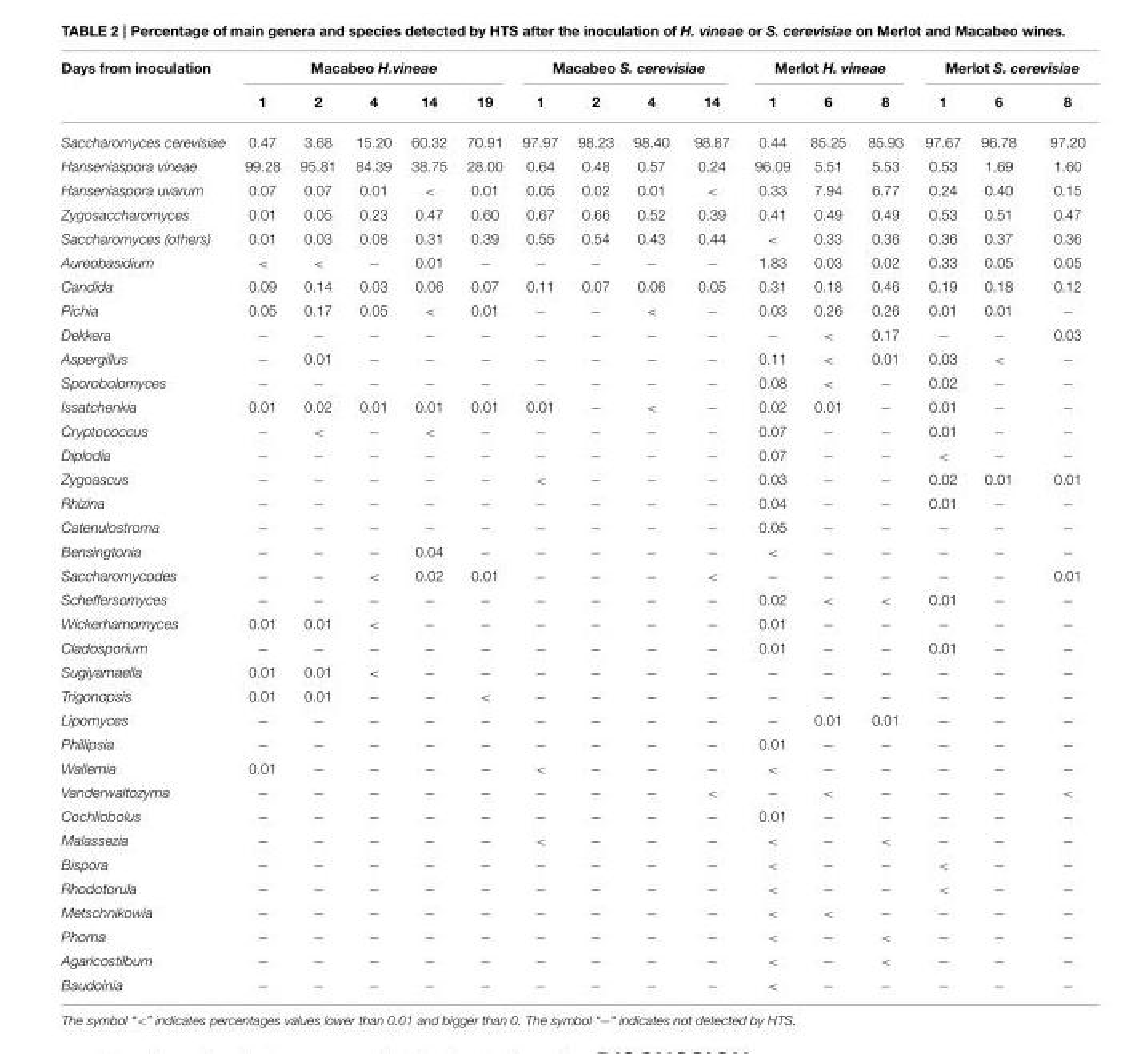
<table><thead><tr><td rowspan="2">Days from inoculation</td><td colspan="5">Macabeo H.vineae</td><td colspan="4">Macabeo S. cerevisiae</td><td colspan="3">Merlot H. vineae</td><td colspan="3">Merlot S. cerevisiae</td></tr><tr><td>1</td><td>2</td><td>4</td><td>14</td><td>19</td><td>1</td><td>2</td><td>4</td><td>14</td><td>1</td><td>6</td><td>8</td><td>1</td><td>6</td><td>8</td></tr></thead><tbody><tr><td>Saccharomyces cerevisiae</td><td>0.47</td><td>3.68</td><td>15.20</td><td>60.32</td><td>70.91</td><td>97.97</td><td>98.23</td><td>98.40</td><td>98.87</td><td>0.44</td><td>85.25</td><td>85.93</td><td>97.67</td><td>96.78</td><td>97.20</td></tr><tr><td>Hanseniaspora vineae</td><td>99.28</td><td>95.81</td><td>84.39</td><td>38.75</td><td>28.00</td><td>0.64</td><td>0.48</td><td>0.57</td><td>0.24</td><td>96.09</td><td>5.51</td><td>5.53</td><td>0.53</td><td>1.69</td><td>1.60</td></tr><tr><td>Hanseniaspora uvarum</td><td>0.07</td><td>0.07</td><td>0.01</td><td>&lt;</td><td>0.01</td><td>0.05</td><td>0.02</td><td>0.01</td><td>&lt;</td><td>0.33</td><td>7.94</td><td>6.77</td><td>0.24</td><td>0.40</td><td>0.15</td></tr><tr><td>Zygosaccharomyces</td><td>0.01</td><td>0.05</td><td>0.23</td><td>0.47</td><td>0.60</td><td>0.67</td><td>0.66</td><td>0.52</td><td>0.39</td><td>0.41</td><td>0.49</td><td>0.49</td><td>0.53</td><td>0.51</td><td>0.47</td></tr><tr><td>Saccharomyces (others)</td><td>0.01</td><td>0.03</td><td>0.08</td><td>0.31</td><td>0.39</td><td>0.55</td><td>0.54</td><td>0.43</td><td>0.44</td><td>&lt;</td><td>0.33</td><td>0.36</td><td>0.36</td><td>0.37</td><td>0.36</td></tr><tr><td>Aureobasidium</td><td>&lt;</td><td>&lt;</td><td>−</td><td>0.01</td><td>−</td><td>−</td><td>−</td><td>−</td><td>−</td><td>1.83</td><td>0.03</td><td>0.02</td><td>0.33</td><td>0.05</td><td>0.05</td></tr><tr><td>Candida</td><td>0.09</td><td>0.14</td><td>0.03</td><td>0.06</td><td>0.07</td><td>0.11</td><td>0.07</td><td>0.06</td><td>0.05</td><td>0.31</td><td>0.18</td><td>0.46</td><td>0.19</td><td>0.18</td><td>0.12</td></tr><tr><td>Pichia</td><td>0.05</td><td>0.17</td><td>0.05</td><td>&lt;</td><td>0.01</td><td>−</td><td>−</td><td>&lt;</td><td>−</td><td>0.03</td><td>0.26</td><td>0.26</td><td>0.01</td><td>0.01</td><td>−</td></tr><tr><td>Dekkera</td><td>−</td><td>−</td><td>−</td><td>−</td><td>−</td><td>−</td><td>−</td><td>−</td><td>−</td><td>−</td><td>&lt;</td><td>0.17</td><td>−</td><td>−</td><td>0.03</td></tr><tr><td>Aspergillus</td><td>−</td><td>0.01</td><td>−</td><td>−</td><td>−</td><td>−</td><td>−</td><td>−</td><td>−</td><td>0.11</td><td>&lt;</td><td>0.01</td><td>0.03</td><td>&lt;</td><td>−</td></tr><tr><td>Sporobolomyces</td><td>−</td><td>−</td><td>−</td><td>−</td><td>−</td><td>−</td><td>−</td><td>−</td><td>−</td><td>0.08</td><td>&lt;</td><td>−</td><td>0.02</td><td>−</td><td>−</td></tr><tr><td>Issatchenkia</td><td>0.01</td><td>0.02</td><td>0.01</td><td>0.01</td><td>0.01</td><td>0.01</td><td>−</td><td>&lt;</td><td>−</td><td>0.02</td><td>0.01</td><td>−</td><td>0.01</td><td>−</td><td>−</td></tr><tr><td>Cryptococcus</td><td>−</td><td>&lt;</td><td>−</td><td>&lt;</td><td>−</td><td>−</td><td>−</td><td>−</td><td>−</td><td>0.07</td><td>−</td><td>−</td><td>0.01</td><td>−</td><td>−</td></tr><tr><td>Diplodia</td><td>−</td><td>−</td><td>−</td><td>−</td><td>−</td><td>−</td><td>−</td><td>−</td><td>−</td><td>0.07</td><td>−</td><td>−</td><td>&lt;</td><td>−</td><td>−</td></tr><tr><td>Zygoascus</td><td>−</td><td>−</td><td>−</td><td>−</td><td>−</td><td>&lt;</td><td>−</td><td>−</td><td>−</td><td>0.03</td><td>−</td><td>−</td><td>0.02</td><td>0.01</td><td>0.01</td></tr><tr><td>Rhizina</td><td>−</td><td>−</td><td>−</td><td>−</td><td>−</td><td>−</td><td>−</td><td>−</td><td>−</td><td>0.04</td><td>−</td><td>−</td><td>0.01</td><td>−</td><td>−</td></tr><tr><td>Catenulostroma</td><td>−</td><td>−</td><td>−</td><td>−</td><td>−</td><td>−</td><td>−</td><td>−</td><td>−</td><td>0.05</td><td>−</td><td>−</td><td>−</td><td>−</td><td>−</td></tr><tr><td>Bensingtonia</td><td>−</td><td>−</td><td>−</td><td>0.04</td><td>−</td><td>−</td><td>−</td><td>−</td><td>−</td><td>&lt;</td><td>−</td><td>−</td><td>−</td><td>−</td><td>−</td></tr><tr><td>Saccharomycodes</td><td>−</td><td>−</td><td>&lt;</td><td>0.02</td><td>0.01</td><td>−</td><td>−</td><td>−</td><td>&lt;</td><td>−</td><td>−</td><td>−</td><td>−</td><td>−</td><td>0.01</td></tr><tr><td>Scheffersomyces</td><td>−</td><td>−</td><td>−</td><td>−</td><td>−</td><td>−</td><td>−</td><td>−</td><td>−</td><td>0.02</td><td>&lt;</td><td>&lt;</td><td>0.01</td><td>−</td><td>−</td></tr><tr><td>Wickerhamomyces</td><td>0.01</td><td>0.01</td><td>&lt;</td><td>−</td><td>−</td><td>−</td><td>−</td><td>−</td><td>−</td><td>0.01</td><td>−</td><td>−</td><td>−</td><td>−</td><td>−</td></tr><tr><td>Cladosporium</td><td>−</td><td>−</td><td>−</td><td>−</td><td>−</td><td>−</td><td>−</td><td>−</td><td>−</td><td>0.01</td><td>−</td><td>−</td><td>0.01</td><td>−</td><td>−</td></tr><tr><td>Sugiyamaella</td><td>0.01</td><td>0.01</td><td>&lt;</td><td>−</td><td>−</td><td>−</td><td>−</td><td>−</td><td>−</td><td>−</td><td>−</td><td>−</td><td>−</td><td>−</td><td>−</td></tr><tr><td>Trigonopsis</td><td>0.01</td><td>0.01</td><td>−</td><td>−</td><td>&lt;</td><td>−</td><td>−</td><td>−</td><td>−</td><td>−</td><td>−</td><td>−</td><td>−</td><td>−</td><td>−</td></tr><tr><td>Lipomyces</td><td>−</td><td>−</td><td>−</td><td>−</td><td>−</td><td>−</td><td>−</td><td>−</td><td>−</td><td>−</td><td>0.01</td><td>0.01</td><td>−</td><td>−</td><td>−</td></tr><tr><td>Phillipsia</td><td>−</td><td>−</td><td>−</td><td>−</td><td>−</td><td>−</td><td>−</td><td>−</td><td>−</td><td>0.01</td><td>−</td><td>−</td><td>−</td><td>−</td><td>−</td></tr><tr><td>Wallemia</td><td>0.01</td><td>−</td><td>−</td><td>−</td><td>−</td><td>&lt;</td><td>−</td><td>−</td><td>−</td><td>&lt;</td><td>−</td><td>−</td><td>−</td><td>−</td><td>−</td></tr><tr><td>Vanderwaltozyma</td><td>−</td><td>−</td><td>−</td><td>−</td><td>−</td><td>−</td><td>−</td><td>−</td><td>&lt;</td><td>−</td><td>&lt;</td><td>−</td><td>−</td><td>−</td><td>&lt;</td></tr><tr><td>Cochliobolus</td><td>−</td><td>−</td><td>−</td><td>−</td><td>−</td><td>−</td><td>−</td><td>−</td><td>−</td><td>0.01</td><td>−</td><td>−</td><td>−</td><td>−</td><td>−</td></tr><tr><td>Malassezia</td><td>−</td><td>−</td><td>−</td><td>−</td><td>−</td><td>&lt;</td><td>−</td><td>−</td><td>−</td><td>&lt;</td><td>−</td><td>&lt;</td><td>−</td><td>−</td><td>−</td></tr><tr><td>Bispora</td><td>−</td><td>−</td><td>−</td><td>−</td><td>−</td><td>−</td><td>−</td><td>−</td><td>−</td><td>&lt;</td><td>−</td><td>−</td><td>&lt;</td><td>−</td><td>−</td></tr><tr><td>Rhodotorula</td><td>−</td><td>−</td><td>−</td><td>−</td><td>−</td><td>−</td><td>−</td><td>−</td><td>−</td><td>&lt;</td><td>−</td><td>−</td><td>&lt;</td><td>−</td><td>−</td></tr><tr><td>Metschnikowia</td><td>−</td><td>−</td><td>−</td><td>−</td><td>−</td><td>−</td><td>−</td><td>−</td><td>−</td><td>&lt;</td><td>&lt;</td><td>−</td><td>−</td><td>−</td><td>−</td></tr><tr><td>Phoma</td><td>−</td><td>−</td><td>−</td><td>−</td><td>−</td><td>−</td><td>−</td><td>−</td><td>−</td><td>&lt;</td><td>−</td><td>&lt;</td><td>−</td><td>−</td><td>−</td></tr><tr><td>Agaricostilbum</td><td>−</td><td>−</td><td>−</td><td>−</td><td>−</td><td>−</td><td>−</td><td>−</td><td>−</td><td>&lt;</td><td>−</td><td>&lt;</td><td>−</td><td>−</td><td>−</td></tr><tr><td>Baudoinia</td><td>−</td><td>−</td><td>−</td><td>−</td><td>−</td><td>−</td><td>−</td><td>−</td><td>−</td><td>&lt;</td><td>−</td><td>−</td><td>−</td><td>−</td><td>−</td></tr></tbody></table>